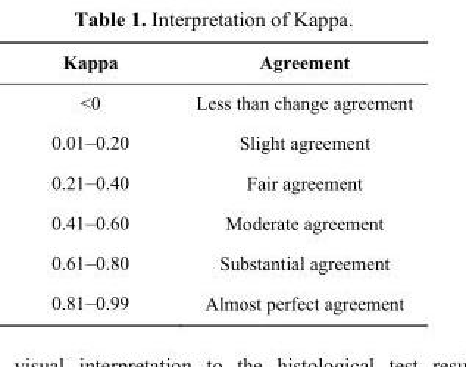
<table><thead><tr><td>Kappa</td><td>Agreement</td></tr></thead><tbody><tr><td>&lt;0</td><td>Less than change agreement</td></tr><tr><td>0.01–0.20</td><td>Slight agreement</td></tr><tr><td>0.21–0.40</td><td>Fair agreement</td></tr><tr><td>0.41–0.60</td><td>Moderate agreement</td></tr><tr><td>0.61–0.80</td><td>Substantial agreement</td></tr><tr><td>0.81–0.99</td><td>Almost perfect agreement</td></tr></tbody></table>